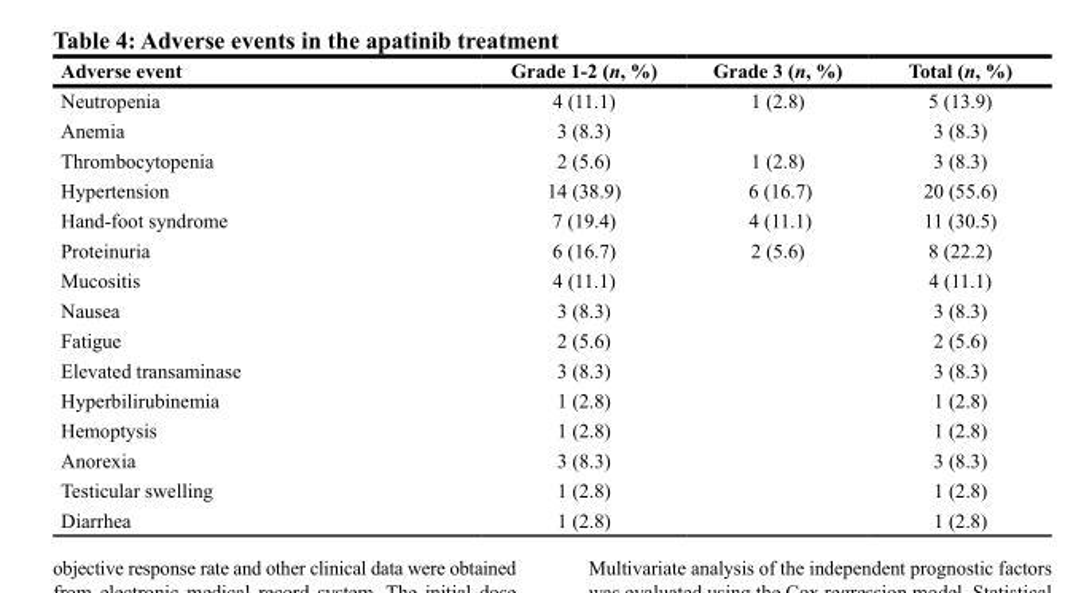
<table><thead><tr><td>Adverse event</td><td>Grade 1-2 (n, %)</td><td>Grade 3 (n, %)</td><td>Total (n, %)</td></tr></thead><tbody><tr><td>Neutropenia</td><td>4 (11.1)</td><td>1 (2.8)</td><td>5 (13.9)</td></tr><tr><td>Anemia</td><td>3 (8.3)</td><td></td><td>3 (8.3)</td></tr><tr><td>Thrombocytopenia</td><td>2 (5.6)</td><td>1 (2.8)</td><td>3 (8.3)</td></tr><tr><td>Hypertension</td><td>14 (38.9)</td><td>6 (16.7)</td><td>20 (55.6)</td></tr><tr><td>Hand-foot syndrome</td><td>7 (19.4)</td><td>4 (11.1)</td><td>11 (30.5)</td></tr><tr><td>Proteinuria</td><td>6 (16.7)</td><td>2 (5.6)</td><td>8 (22.2)</td></tr><tr><td>Mucositis</td><td>4 (11.1)</td><td></td><td>4 (11.1)</td></tr><tr><td>Nausea</td><td>3 (8.3)</td><td></td><td>3 (8.3)</td></tr><tr><td>Fatigue</td><td>2 (5.6)</td><td></td><td>2 (5.6)</td></tr><tr><td>Elevated transaminase</td><td>3 (8.3)</td><td></td><td>3 (8.3)</td></tr><tr><td>Hyperbilirubinemia</td><td>1 (2.8)</td><td></td><td>1 (2.8)</td></tr><tr><td>Hemoptysis</td><td>1 (2.8)</td><td></td><td>1 (2.8)</td></tr><tr><td>Anorexia</td><td>3 (8.3)</td><td></td><td>3 (8.3)</td></tr><tr><td>Testicular swelling</td><td>1 (2.8)</td><td></td><td>1 (2.8)</td></tr><tr><td>Diarrhea</td><td>1 (2.8)</td><td></td><td>1 (2.8)</td></tr></tbody></table>